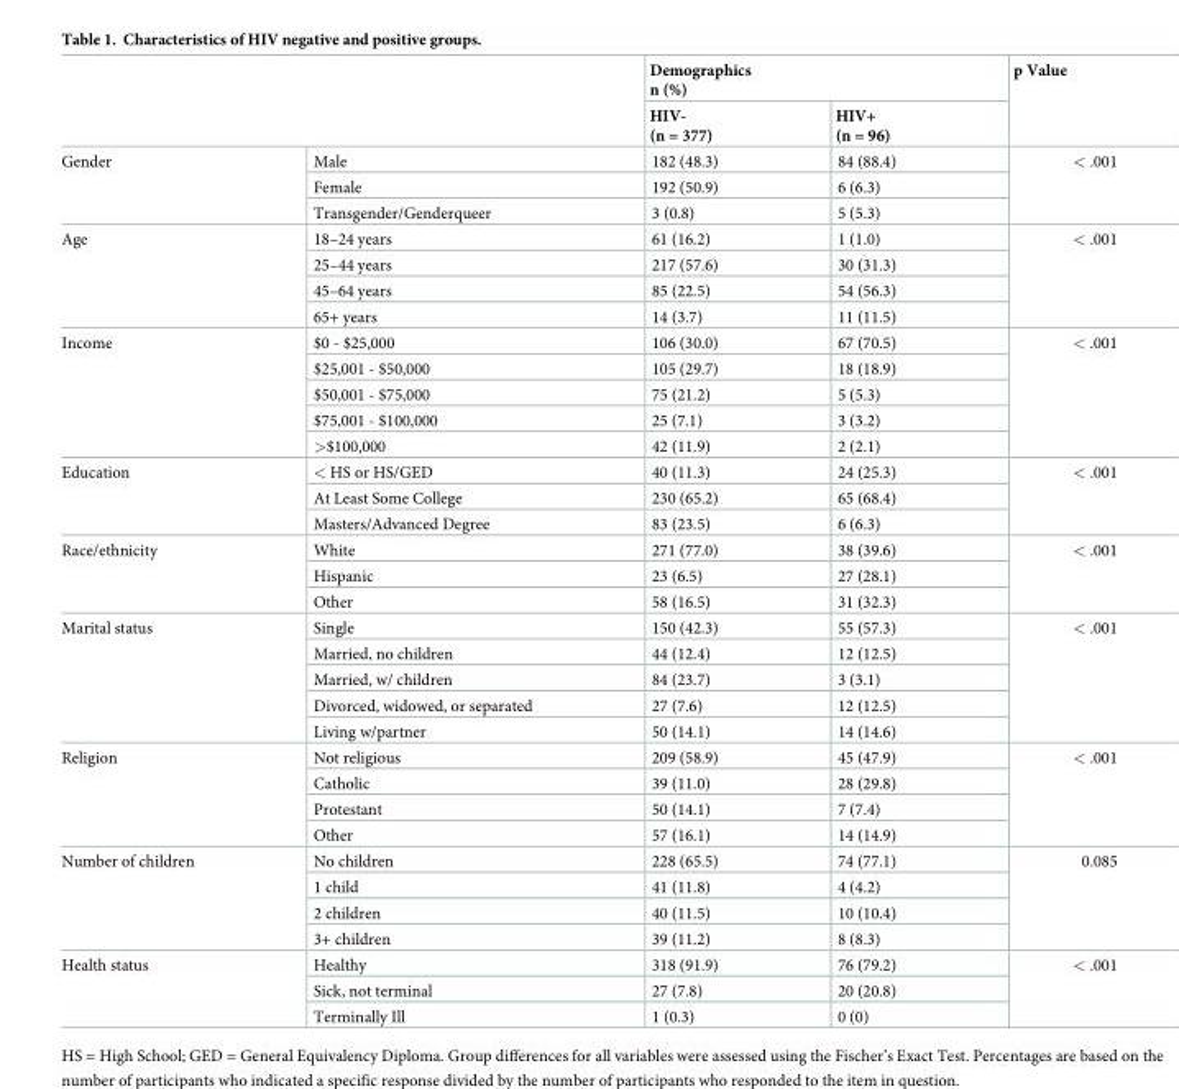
<table><thead><tr><td rowspan="2"></td><td rowspan="2"></td><td colspan="2">Demographics n (%)</td><td rowspan="2">p Value</td></tr><tr><td>HIV- (n = 377)</td><td>HIV+ (n = 96)</td></tr></thead><tbody><tr><td rowspan="3">Gender</td><td>Male</td><td>182 (48.3)</td><td>84 (88.4)</td><td rowspan="3">&lt; .001</td></tr><tr><td>Female</td><td>192 (50.9)</td><td>6 (6.3)</td></tr><tr><td>Transgender/Genderqueer</td><td>3 (0.8)</td><td>5 (5.3)</td></tr><tr><td rowspan="4">Age</td><td>18–24 years</td><td>61 (16.2)</td><td>1 (1.0)</td><td rowspan="4">&lt; .001</td></tr><tr><td>25–44 years</td><td>217 (57.6)</td><td>30 (31.3)</td></tr><tr><td>45–64 years</td><td>85 (22.5)</td><td>54 (56.3)</td></tr><tr><td>65+ years</td><td>14 (3.7)</td><td>11 (11.5)</td></tr><tr><td rowspan="5">Income</td><td>$0 - $25,000</td><td>106 (30.0)</td><td>67 (70.5)</td><td rowspan="5">&lt; .001</td></tr><tr><td>$25,001 - $50,000</td><td>105 (29.7)</td><td>18 (18.9)</td></tr><tr><td>$50,001 - $75,000</td><td>75 (21.2)</td><td>5 (5.3)</td></tr><tr><td>$75,001 - $100,000</td><td>25 (7.1)</td><td>3 (3.2)</td></tr><tr><td>&gt;$100,000</td><td>42 (11.9)</td><td>2 (2.1)</td></tr><tr><td rowspan="3">Education</td><td>&lt; HS or HS/GED</td><td>40 (11.3)</td><td>24 (25.3)</td><td rowspan="3">&lt; .001</td></tr><tr><td>At Least Some College</td><td>230 (65.2)</td><td>65 (68.4)</td></tr><tr><td>Masters/Advanced Degree</td><td>83 (23.5)</td><td>6 (6.3)</td></tr><tr><td rowspan="3">Race/ethnicity</td><td>White</td><td>271 (77.0)</td><td>38 (39.6)</td><td rowspan="3">&lt; .001</td></tr><tr><td>Hispanic</td><td>23 (6.5)</td><td>27 (28.1)</td></tr><tr><td>Other</td><td>58 (16.5)</td><td>31 (32.3)</td></tr><tr><td rowspan="5">Marital status</td><td>Single</td><td>150 (42.3)</td><td>55 (57.3)</td><td rowspan="5">&lt; .001</td></tr><tr><td>Married, no children</td><td>44 (12.4)</td><td>12 (12.5)</td></tr><tr><td>Married, w/ children</td><td>84 (23.7)</td><td>3 (3.1)</td></tr><tr><td>Divorced, widowed, or separated</td><td>27 (7.6)</td><td>12 (12.5)</td></tr><tr><td>Living w/partner</td><td>50 (14.1)</td><td>14 (14.6)</td></tr><tr><td rowspan="4">Religion</td><td>Not religious</td><td>209 (58.9)</td><td>45 (47.9)</td><td rowspan="4">&lt; .001</td></tr><tr><td>Catholic</td><td>39 (11.0)</td><td>28 (29.8)</td></tr><tr><td>Protestant</td><td>50 (14.1)</td><td>7 (7.4)</td></tr><tr><td>Other</td><td>57 (16.1)</td><td>14 (14.9)</td></tr><tr><td rowspan="4">Number of children</td><td>No children</td><td>228 (65.5)</td><td>74 (77.1)</td><td rowspan="4">0.085</td></tr><tr><td>1 child</td><td>41 (11.8)</td><td>4 (4.2)</td></tr><tr><td>2 children</td><td>40 (11.5)</td><td>10 (10.4)</td></tr><tr><td>3+ children</td><td>39 (11.2)</td><td>8 (8.3)</td></tr><tr><td rowspan="3">Health status</td><td>Healthy</td><td>318 (91.9)</td><td>76 (79.2)</td><td rowspan="3">&lt; .001</td></tr><tr><td>Sick, not terminal</td><td>27 (7.8)</td><td>20 (20.8)</td></tr><tr><td>Terminally Ill</td><td>1 (0.3)</td><td>0 (0)</td></tr></tbody></table>